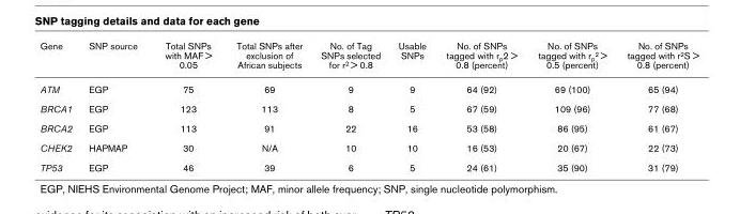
<table><thead><tr><td>Gene</td><td>SNP source</td><td>Total SNPs with MAF &gt; 0.05</td><td>Total SNPs after exclusion of African subjects</td><td>No. of Tag SNPs selected for r2 &gt; 0.8</td><td>Usable SNPs</td><td>No. of SNPs tagged with rp2 &gt; 0.8 (percent)</td><td>No. of SNPs tagged with rp2 &gt; 0.5 (percent)</td><td>No. of SNPs tagged with r2S &gt; 0.8 (percent)</td></tr></thead><tbody><tr><td>ATM</td><td>EGP</td><td>75</td><td>69</td><td>9</td><td>9</td><td>64 (92)</td><td>69 (100)</td><td>65 (94)</td></tr><tr><td>BRCA1</td><td>EGP</td><td>123</td><td>113</td><td>8</td><td>5</td><td>67 (59)</td><td>109 (96)</td><td>77 (68)</td></tr><tr><td>BRCA2</td><td>EGP</td><td>113</td><td>91</td><td>22</td><td>16</td><td>53 (58)</td><td>86 (95)</td><td>61 (67)</td></tr><tr><td>CHEK2</td><td>HAPMAP</td><td>30</td><td>N/A</td><td>10</td><td>10</td><td>16 (53)</td><td>20 (67)</td><td>22 (73)</td></tr><tr><td>TP53</td><td>EGP</td><td>46</td><td>39</td><td>6</td><td>5</td><td>24 (61)</td><td>35 (90)</td><td>31 (79)</td></tr></tbody></table>